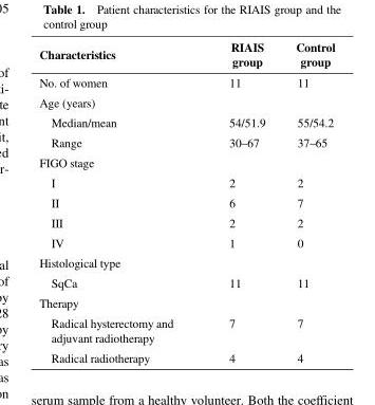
<table><thead><tr><td>Characteristics</td><td>RIAIS group</td><td>Control group</td></tr></thead><tbody><tr><td>No. of women</td><td>11</td><td>11</td></tr><tr><td colspan="3">Age (years)</td></tr><tr><td>Median/mean</td><td>54/51.9</td><td>55/54.2</td></tr><tr><td>Range</td><td>30–67</td><td>37–65</td></tr><tr><td colspan="3">FIGO stage</td></tr><tr><td>I</td><td>2</td><td>2</td></tr><tr><td>II</td><td>6</td><td>7</td></tr><tr><td>III</td><td>2</td><td>2</td></tr><tr><td>IV</td><td>1</td><td>0</td></tr><tr><td colspan="3">Histological type</td></tr><tr><td>SqCa</td><td>11</td><td>11</td></tr><tr><td colspan="3">Therapy</td></tr><tr><td>Radical hysterectomy and adjuvant radiotherapy</td><td>7</td><td>7</td></tr><tr><td>Radical radiotherapy</td><td>4</td><td>4</td></tr></tbody></table>